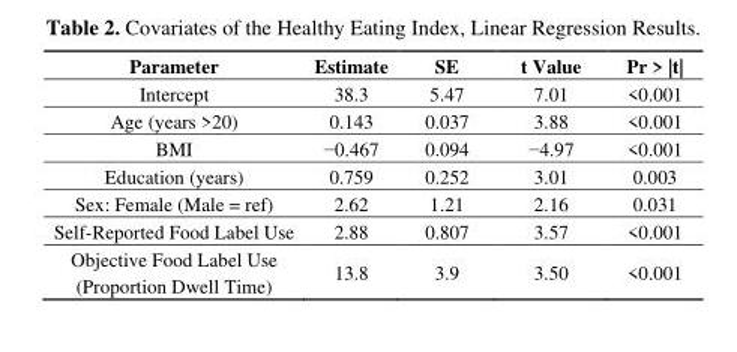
<table><thead><tr><td>Parameter</td><td>Estimate</td><td>SE</td><td>t Value</td><td>Pr &gt; |t|</td></tr></thead><tbody><tr><td>Intercept</td><td>38.3</td><td>5.47</td><td>7.01</td><td>&lt;0.001</td></tr><tr><td>Age (years &gt;20)</td><td>0.143</td><td>0.037</td><td>3.88</td><td>&lt;0.001</td></tr><tr><td>BMI</td><td>−0.467</td><td>0.094</td><td>−4.97</td><td>&lt;0.001</td></tr><tr><td>Education (years)</td><td>0.759</td><td>0.252</td><td>3.01</td><td>0.003</td></tr><tr><td>Sex: Female (Male = ref)</td><td>2.62</td><td>1.21</td><td>2.16</td><td>0.031</td></tr><tr><td>Self-Reported Food Label Use</td><td>2.88</td><td>0.807</td><td>3.57</td><td>&lt;0.001</td></tr><tr><td>Objective Food Label Use (Proportion Dwell Time)</td><td>13.8</td><td>3.9</td><td>3.50</td><td>&lt;0.001</td></tr></tbody></table>